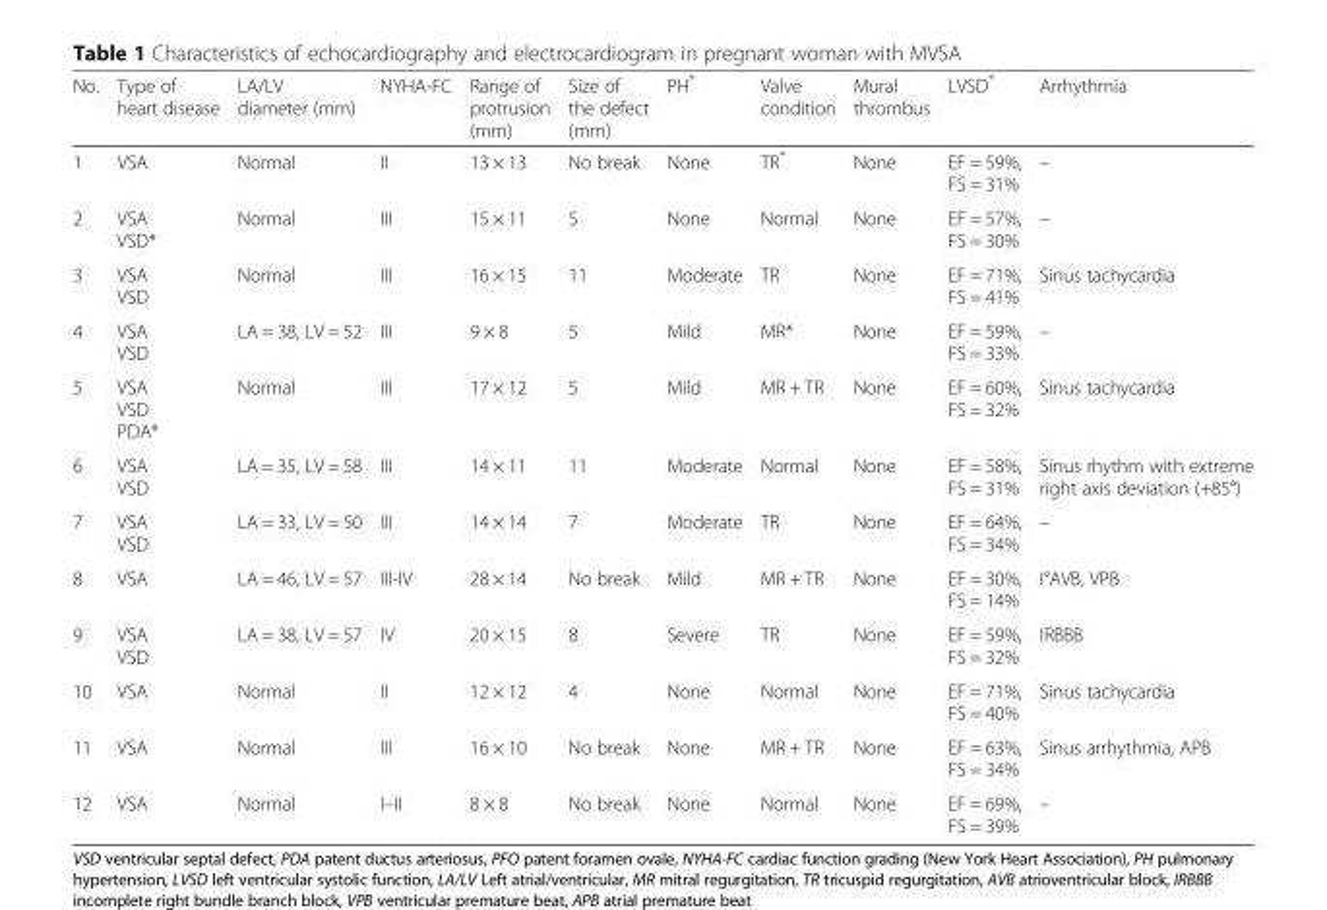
<table><thead><tr><td>No.</td><td>Type of heart disease</td><td>LA/LV diameter (mm)</td><td>NYHA-FC</td><td>Range of protrusion (mm)</td><td>Size of the defect (mm)</td><td>PH*</td><td>Valve condition</td><td>Mural thrombus</td><td>LVSD*</td><td>Arrhythmia</td></tr></thead><tbody><tr><td>1</td><td>VSA</td><td>Normal</td><td>II</td><td>13 × 13</td><td>No break</td><td>None</td><td>TR*</td><td>None</td><td>EF = 59%, FS = 31%</td><td>–</td></tr><tr><td>2</td><td>VSA VSD*</td><td>Normal</td><td>III</td><td>15 × 11</td><td>5</td><td>None</td><td>Normal</td><td>None</td><td>EF = 57%, FS = 30%</td><td>–</td></tr><tr><td>3</td><td>VSA VSD</td><td>Normal</td><td>III</td><td>16 × 15</td><td>11</td><td>Moderate</td><td>TR</td><td>None</td><td>EF = 71%, FS = 41%</td><td>Sinus tachycardia</td></tr><tr><td>4</td><td>VSA VSD</td><td>LA = 38, LV = 52</td><td>III</td><td>9 × 8</td><td>5</td><td>Mild</td><td>MR*</td><td>None</td><td>EF = 59%, FS = 33%</td><td>–</td></tr><tr><td>5</td><td>VSA VSD PDA*</td><td>Normal</td><td>III</td><td>17 × 12</td><td>5</td><td>Mild</td><td>MR + TR</td><td>None</td><td>EF = 60%, FS = 32%</td><td>Sinus tachycardia</td></tr><tr><td>6</td><td>VSA VSD</td><td>LA = 35, LV = 58</td><td>III</td><td>14 × 11</td><td>11</td><td>Moderate</td><td>Normal</td><td>None</td><td>EF = 58%, FS = 31%</td><td>Sinus rhythm with extreme right axis deviation (+85°)</td></tr><tr><td>7</td><td>VSA VSD</td><td>LA = 33, LV = 50</td><td>III</td><td>14 × 14</td><td>7</td><td>Moderate</td><td>TR</td><td>None</td><td>EF = 64%, FS = 34%</td><td>–</td></tr><tr><td>8</td><td>VSA</td><td>LA = 46, LV = 57</td><td>III-IV</td><td>28 × 14</td><td>No break</td><td>Mild</td><td>MR + TR</td><td>None</td><td>EF = 30%, FS = 14%</td><td>I°AVB, VPB</td></tr><tr><td>9</td><td>VSA VSD</td><td>LA = 38, LV = 57</td><td>IV</td><td>20 × 15</td><td>8</td><td>Severe</td><td>TR</td><td>None</td><td>EF = 59%, FS = 32%</td><td>IRBBB</td></tr><tr><td>10</td><td>VSA</td><td>Normal</td><td>II</td><td>12 × 12</td><td>4</td><td>None</td><td>Normal</td><td>None</td><td>EF = 71%, FS = 40%</td><td>Sinus tachycardia</td></tr><tr><td>11</td><td>VSA</td><td>Normal</td><td>III</td><td>16 × 10</td><td>No break</td><td>None</td><td>MR + TR</td><td>None</td><td>EF = 63%, FS = 34%</td><td>Sinus arrhythmia, APB</td></tr><tr><td>12</td><td>VSA</td><td>Normal</td><td>I–II</td><td>8 × 8</td><td>No break</td><td>None</td><td>Normal</td><td>None</td><td>EF = 69%, FS = 39%</td><td>–</td></tr></tbody></table>